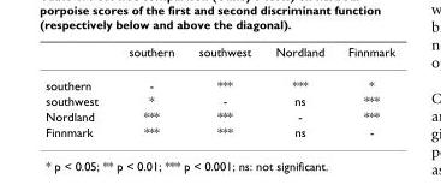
<table><thead><tr><td></td><td>southern</td><td>southwest</td><td>Nordland</td><td>Finnmark</td></tr></thead><tbody><tr><td>southern</td><td>-</td><td>***</td><td>***</td><td>*</td></tr><tr><td>southwest</td><td>*</td><td>-</td><td>ns</td><td>***</td></tr><tr><td>Nordland</td><td>***</td><td>***</td><td>-</td><td>***</td></tr><tr><td>Finnmark</td><td>***</td><td>***</td><td>ns</td><td>-</td></tr></tbody></table>